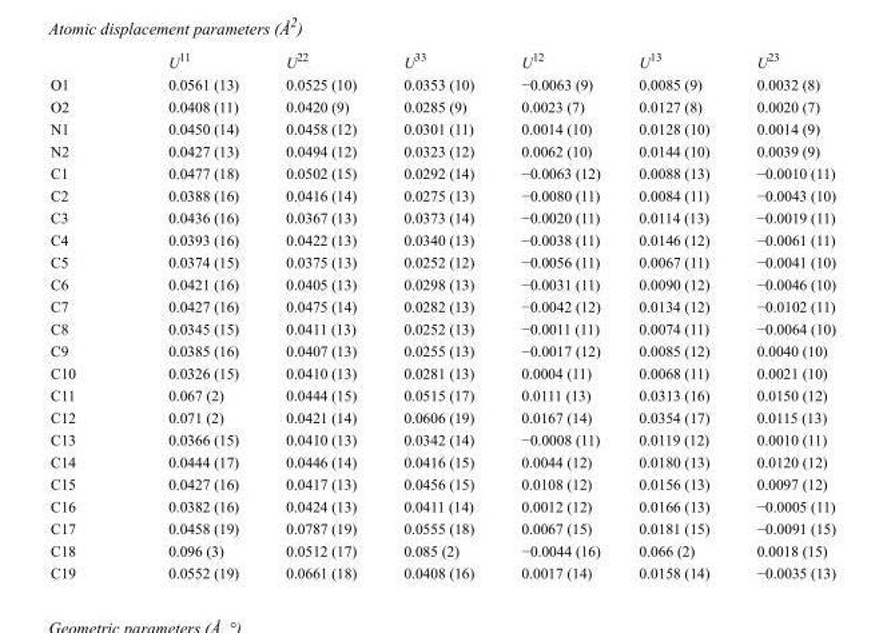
<table><thead><tr><td></td><td>U<sup>11</sup></td><td>U<sup>22</sup></td><td>U<sup>33</sup></td><td>U<sup>12</sup></td><td>U<sup>13</sup></td><td>U<sup>23</sup></td></tr></thead><tbody><tr><td>O1</td><td>0.0561 (13)</td><td>0.0525 (10)</td><td>0.0353 (10)</td><td>−0.0063 (9)</td><td>0.0085 (9)</td><td>0.0032 (8)</td></tr><tr><td>O2</td><td>0.0408 (11)</td><td>0.0420 (9)</td><td>0.0285 (9)</td><td>0.0023 (7)</td><td>0.0127 (8)</td><td>0.0020 (7)</td></tr><tr><td>N1</td><td>0.0450 (14)</td><td>0.0458 (12)</td><td>0.0301 (11)</td><td>0.0014 (10)</td><td>0.0128 (10)</td><td>0.0014 (9)</td></tr><tr><td>N2</td><td>0.0427 (13)</td><td>0.0494 (12)</td><td>0.0323 (12)</td><td>0.0062 (10)</td><td>0.0144 (10)</td><td>0.0039 (9)</td></tr><tr><td>C1</td><td>0.0477 (18)</td><td>0.0502 (15)</td><td>0.0292 (14)</td><td>−0.0063 (12)</td><td>0.0088 (13)</td><td>−0.0010 (11)</td></tr><tr><td>C2</td><td>0.0388 (16)</td><td>0.0416 (14)</td><td>0.0275 (13)</td><td>−0.0080 (11)</td><td>0.0084 (11)</td><td>−0.0043 (10)</td></tr><tr><td>C3</td><td>0.0436 (16)</td><td>0.0367 (13)</td><td>0.0373 (14)</td><td>−0.0020 (11)</td><td>0.0114 (13)</td><td>−0.0019 (11)</td></tr><tr><td>C4</td><td>0.0393 (16)</td><td>0.0422 (13)</td><td>0.0340 (13)</td><td>−0.0038 (11)</td><td>0.0146 (12)</td><td>−0.0061 (11)</td></tr><tr><td>C5</td><td>0.0374 (15)</td><td>0.0375 (13)</td><td>0.0252 (12)</td><td>−0.0056 (11)</td><td>0.0067 (11)</td><td>−0.0041 (10)</td></tr><tr><td>C6</td><td>0.0421 (16)</td><td>0.0405 (13)</td><td>0.0298 (13)</td><td>−0.0031 (11)</td><td>0.0090 (12)</td><td>−0.0046 (10)</td></tr><tr><td>C7</td><td>0.0427 (16)</td><td>0.0475 (14)</td><td>0.0282 (13)</td><td>−0.0042 (12)</td><td>0.0134 (12)</td><td>−0.0102 (11)</td></tr><tr><td>C8</td><td>0.0345 (15)</td><td>0.0411 (13)</td><td>0.0252 (13)</td><td>−0.0011 (11)</td><td>0.0074 (11)</td><td>−0.0064 (10)</td></tr><tr><td>C9</td><td>0.0385 (16)</td><td>0.0407 (13)</td><td>0.0255 (13)</td><td>−0.0017 (12)</td><td>0.0085 (12)</td><td>0.0040 (10)</td></tr><tr><td>C10</td><td>0.0326 (15)</td><td>0.0410 (13)</td><td>0.0281 (13)</td><td>0.0004 (11)</td><td>0.0068 (11)</td><td>0.0021 (10)</td></tr><tr><td>C11</td><td>0.067 (2)</td><td>0.0444 (15)</td><td>0.0515 (17)</td><td>0.0111 (13)</td><td>0.0313 (16)</td><td>0.0150 (12)</td></tr><tr><td>C12</td><td>0.071 (2)</td><td>0.0421 (14)</td><td>0.0606 (19)</td><td>0.0167 (14)</td><td>0.0354 (17)</td><td>0.0115 (13)</td></tr><tr><td>C13</td><td>0.0366 (15)</td><td>0.0410 (13)</td><td>0.0342 (14)</td><td>−0.0008 (11)</td><td>0.0119 (12)</td><td>0.0010 (11)</td></tr><tr><td>C14</td><td>0.0444 (17)</td><td>0.0446 (14)</td><td>0.0416 (15)</td><td>0.0044 (12)</td><td>0.0180 (13)</td><td>0.0120 (12)</td></tr><tr><td>C15</td><td>0.0427 (16)</td><td>0.0417 (13)</td><td>0.0456 (15)</td><td>0.0108 (12)</td><td>0.0156 (13)</td><td>0.0097 (12)</td></tr><tr><td>C16</td><td>0.0382 (16)</td><td>0.0424 (13)</td><td>0.0411 (14)</td><td>0.0012 (12)</td><td>0.0166 (13)</td><td>−0.0005 (11)</td></tr><tr><td>C17</td><td>0.0458 (19)</td><td>0.0787 (19)</td><td>0.0555 (18)</td><td>0.0067 (15)</td><td>0.0181 (15)</td><td>−0.0091 (15)</td></tr><tr><td>C18</td><td>0.096 (3)</td><td>0.0512 (17)</td><td>0.085 (2)</td><td>−0.0044 (16)</td><td>0.066 (2)</td><td>0.0018 (15)</td></tr><tr><td>C19</td><td>0.0552 (19)</td><td>0.0661 (18)</td><td>0.0408 (16)</td><td>0.0017 (14)</td><td>0.0158 (14)</td><td>−0.0035 (13)</td></tr></tbody></table>